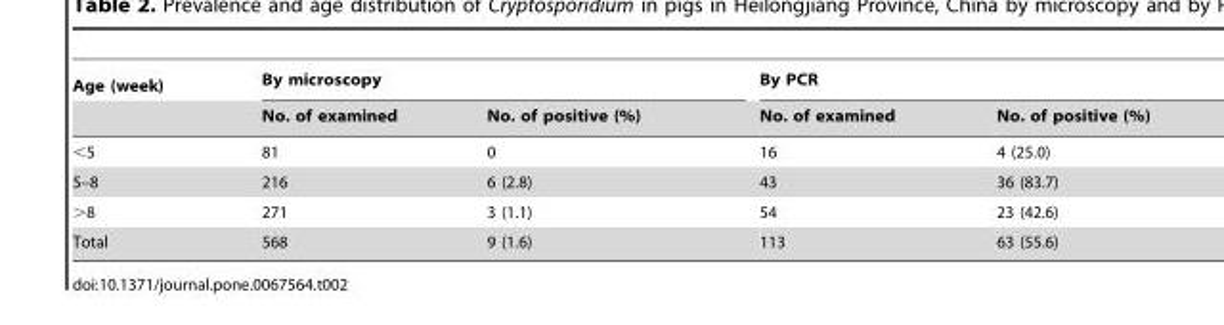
<table><thead><tr><td rowspan="2">Age (week)</td><td colspan="2">By microscopy</td><td colspan="2">By PCR</td></tr><tr><td>No. of examined</td><td>No. of positive (%)</td><td>No. of examined</td><td>No. of positive (%)</td></tr></thead><tbody><tr><td>&lt;5</td><td>81</td><td>0</td><td>16</td><td>4 (25.0)</td></tr><tr><td>5–8</td><td>216</td><td>6 (2.8)</td><td>43</td><td>36 (83.7)</td></tr><tr><td>&gt;8</td><td>271</td><td>3 (1.1)</td><td>54</td><td>23 (42.6)</td></tr><tr><td>Total</td><td>568</td><td>9 (1.6)</td><td>113</td><td>63 (55.6)</td></tr></tbody></table>